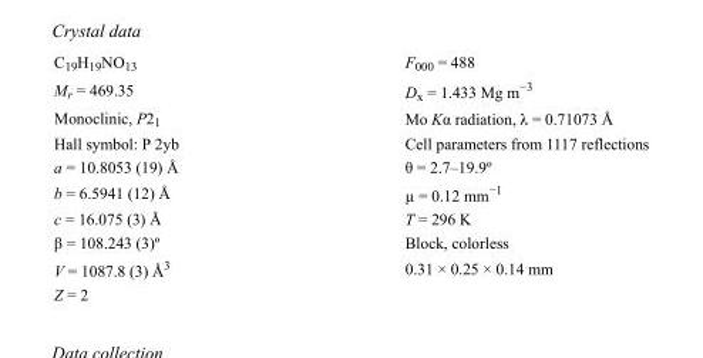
<table><tbody><tr><td>C<sub>19</sub>H<sub>19</sub>NO<sub>13</sub></td><td>F000 = 488</td></tr><tr><td>M<sub>r</sub> = 469.35</td><td>D<sub>x</sub> = 1.433 Mg m<sup>−3</sup></td></tr><tr><td>Monoclinic, P2<sub>1</sub></td><td>Mo Kα radiation, λ = 0.71073 Å</td></tr><tr><td>Hall symbol: P 2yb</td><td>Cell parameters from 1117 reflections</td></tr><tr><td>a = 10.8053 (19) Å</td><td>θ = 2.7–19.9º</td></tr><tr><td>b = 6.5941 (12) Å</td><td>µ = 0.12 mm<sup>−1</sup></td></tr><tr><td>c = 16.075 (3) Å</td><td>T = 296 K</td></tr><tr><td>β = 108.243 (3)º</td><td>Block, colorless</td></tr><tr><td>V = 1087.8 (3) Å<sup>3</sup></td><td>0.31 × 0.25 × 0.14 mm</td></tr><tr><td>Z = 2</td><td></td></tr></tbody></table>